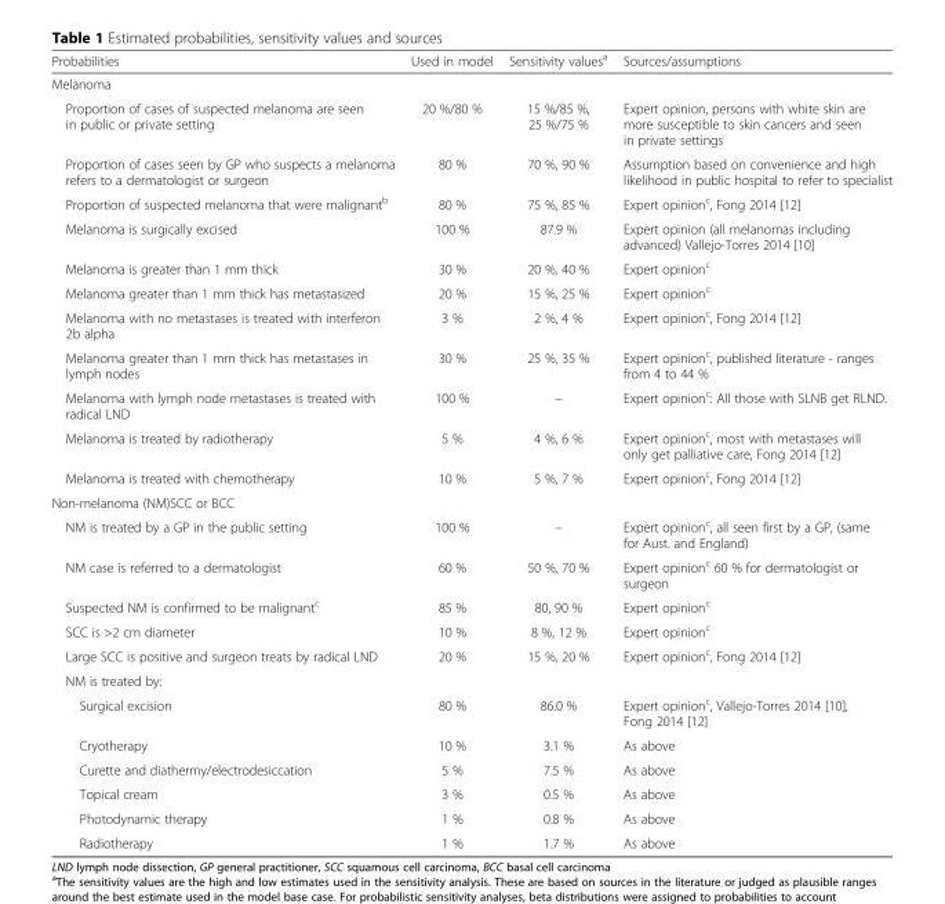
<table><thead><tr><td>Probabilities</td><td>Used in model</td><td>Sensitivity values<sup>a</sup></td><td>Sources/assumptions</td></tr></thead><tbody><tr><td colspan="4">Melanoma</td></tr><tr><td>Proportion of cases of suspected melanoma are seen in public or private setting</td><td>20 %/80 %</td><td>15 %/85 %, 25 %/75 %</td><td>Expert opinion, persons with white skin are more susceptible to skin cancers and seen in private settings</td></tr><tr><td>Proportion of cases seen by GP who suspects a melanoma refers to a dermatologist or surgeon</td><td>80 %</td><td>70 %, 90 %</td><td>Assumption based on convenience and high likelihood in public hospital to refer to specialist</td></tr><tr><td>Proportion of suspected melanoma that were malignant<sup>b</sup></td><td>80 %</td><td>75 %, 85 %</td><td>Expert opinion<sup>c</sup>, Fong 2014 [12]</td></tr><tr><td>Melanoma is surgically excised</td><td>100 %</td><td>87.9 %</td><td>Expert opinion (all melanomas including advanced) Vallejo-Torres 2014 [10]</td></tr><tr><td>Melanoma is greater than 1 mm thick</td><td>30 %</td><td>20 %, 40 %</td><td>Expert opinion<sup>c</sup></td></tr><tr><td>Melanoma greater than 1 mm thick has metastasized</td><td>20 %</td><td>15 %, 25 %</td><td>Expert opinion<sup>c</sup></td></tr><tr><td>Melanoma with no metastases is treated with interferon 2b alpha</td><td>3 %</td><td>2 %, 4 %</td><td>Expert opinion<sup>c</sup>, Fong 2014 [12]</td></tr><tr><td>Melanoma greater than 1 mm thick has metastases in lymph nodes</td><td>30 %</td><td>25 %, 35 %</td><td>Expert opinion<sup>c</sup>, published literature - ranges from 4 to 44 %</td></tr><tr><td>Melanoma with lymph node metastases is treated with radical LND</td><td>100 %</td><td>–</td><td>Expert opinion<sup>c</sup>: All those with SLNB get RLND.</td></tr><tr><td>Melanoma is treated by radiotherapy</td><td>5 %</td><td>4 %, 6 %</td><td>Expert opinion<sup>c</sup>, most with metastases will only get palliative care, Fong 2014 [12]</td></tr><tr><td>Melanoma is treated with chemotherapy</td><td>10 %</td><td>5 %, 7 %</td><td>Expert opinion<sup>c</sup>, Fong 2014 [12]</td></tr><tr><td colspan="4">Non-melanoma (NM)SCC or BCC</td></tr><tr><td>NM is treated by a GP in the public setting</td><td>100 %</td><td>–</td><td>Expert opinion<sup>c</sup>, all seen first by a GP, (same for Aust. and England)</td></tr><tr><td>NM case is referred to a dermatologist</td><td>60 %</td><td>50 %, 70 %</td><td>Expert opinion<sup>c</sup> 60 % for dermatologist or surgeon</td></tr><tr><td>Suspected NM is confirmed to be malignant<sup>c</sup></td><td>85 %</td><td>80, 90 %</td><td>Expert opinion<sup>c</sup></td></tr><tr><td>SCC is &gt;2 cm diameter</td><td>10 %</td><td>8 %, 12 %</td><td>Expert opinion<sup>c</sup></td></tr><tr><td>Large SCC is positive and surgeon treats by radical LND</td><td>20 %</td><td>15 %, 20 %</td><td>Expert opinion<sup>c</sup>, Fong 2014 [12]</td></tr><tr><td colspan="4">NM is treated by:</td></tr><tr><td>Surgical excision</td><td>80 %</td><td>86.0 %</td><td>Expert opinion<sup>c</sup>, Vallejo-Torres 2014 [10], Fong 2014 [12]</td></tr><tr><td>Cryotherapy</td><td>10 %</td><td>3.1 %</td><td>As above</td></tr><tr><td>Curette and diathermy/electrodesiccation</td><td>5 %</td><td>7.5 %</td><td>As above</td></tr><tr><td>Topical cream</td><td>3 %</td><td>0.5 %</td><td>As above</td></tr><tr><td>Photodynamic therapy</td><td>1 %</td><td>0.8 %</td><td>As above</td></tr><tr><td>Radiotherapy</td><td>1 %</td><td>1.7 %</td><td>As above</td></tr></tbody></table>